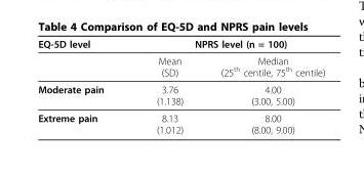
<table><thead><tr><td rowspan="2">EQ-5D level</td><td colspan="2">NPRS level (n = 100)</td></tr><tr><td>Mean (SD)</td><td>Median (25<sup>th</sup> centile, 75<sup>th</sup> centile)</td></tr></thead><tbody><tr><td>Moderate pain</td><td>3.76 (1.138)</td><td>4.00 (3.00, 5.00)</td></tr><tr><td>Extreme pain</td><td>8.13 (1.012)</td><td>8.00 (8.00, 9.00)</td></tr></tbody></table>